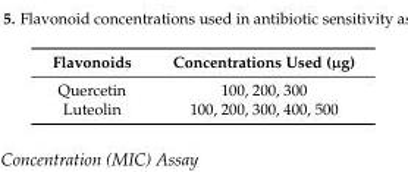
<table><thead><tr><td>Flavonoids</td><td>Concentrations Used (µg)</td></tr></thead><tbody><tr><td>Quercetin</td><td>100, 200, 300</td></tr><tr><td>Luteolin</td><td>100, 200, 300, 400, 500</td></tr></tbody></table>